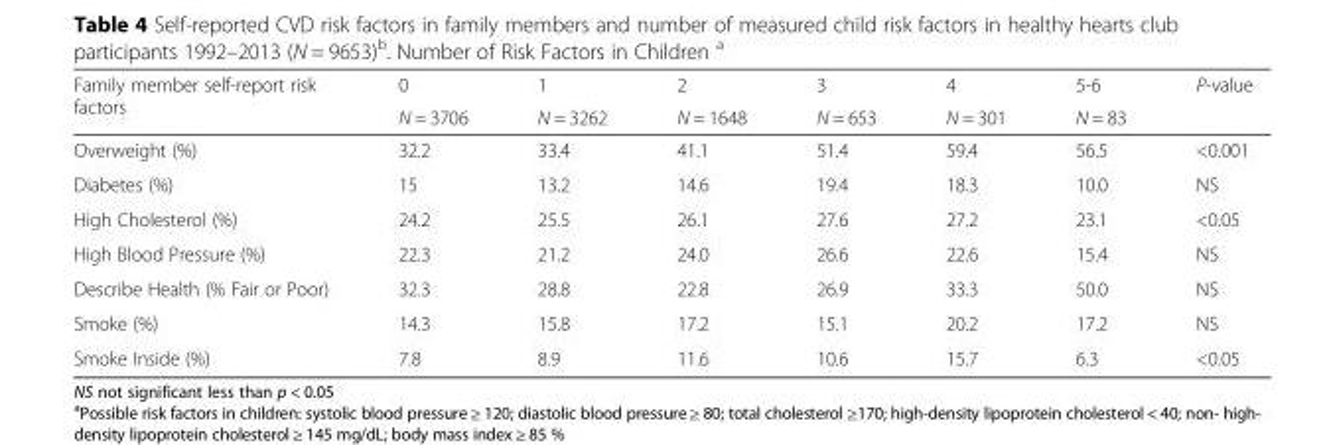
<table><thead><tr><td rowspan="2">Family member self-report risk factors</td><td rowspan="2">0 N = 3706</td><td rowspan="2">1 N = 3262</td><td rowspan="2">2 N = 1648</td><td rowspan="2">3 N = 653</td><td rowspan="2">4 N = 301</td><td rowspan="2">5-6 N = 83</td><td rowspan="2">P-value</td></tr><tr></tr></thead><tbody><tr><td>Overweight (%)</td><td>32.2</td><td>33.4</td><td>41.1</td><td>51.4</td><td>59.4</td><td>56.5</td><td>&lt;0.001</td></tr><tr><td>Diabetes (%)</td><td>15</td><td>13.2</td><td>14.6</td><td>19.4</td><td>18.3</td><td>10.0</td><td>NS</td></tr><tr><td>High Cholesterol (%)</td><td>24.2</td><td>25.5</td><td>26.1</td><td>27.6</td><td>27.2</td><td>23.1</td><td>&lt;0.05</td></tr><tr><td>High Blood Pressure (%)</td><td>22.3</td><td>21.2</td><td>24.0</td><td>26.6</td><td>22.6</td><td>15.4</td><td>NS</td></tr><tr><td>Describe Health (% Fair or Poor)</td><td>32.3</td><td>28.8</td><td>22.8</td><td>26.9</td><td>33.3</td><td>50.0</td><td>NS</td></tr><tr><td>Smoke (%)</td><td>14.3</td><td>15.8</td><td>17.2</td><td>15.1</td><td>20.2</td><td>17.2</td><td>NS</td></tr><tr><td>Smoke Inside (%)</td><td>7.8</td><td>8.9</td><td>11.6</td><td>10.6</td><td>15.7</td><td>6.3</td><td>&lt;0.05</td></tr></tbody></table>